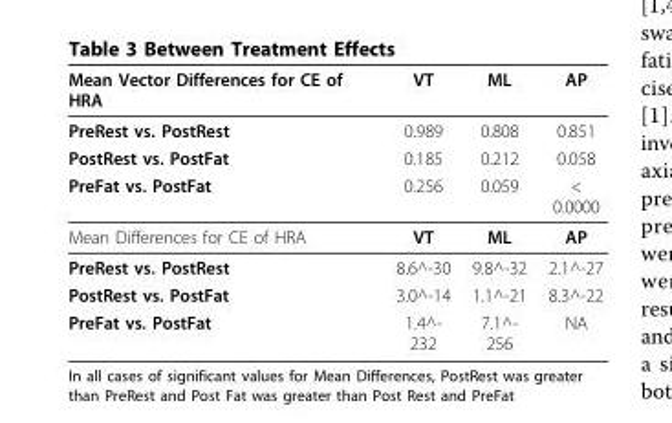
<table><thead><tr><td>Mean Vector Differences for CE of HRA</td><td>VT</td><td>ML</td><td>AP</td></tr></thead><tbody><tr><td>PreRest vs. PostRest</td><td>0.989</td><td>0.808</td><td>0.851</td></tr><tr><td>PostRest vs. PostFat</td><td>0.185</td><td>0.212</td><td>0.058</td></tr><tr><td>PreFat vs. PostFat</td><td>0.256</td><td>0.059</td><td>&lt; 0.0000</td></tr><tr><td>Mean Differences for CE of HRA</td><td>VT</td><td>ML</td><td>AP</td></tr><tr><td>PreRest vs. PostRest</td><td>8.6^-30</td><td>9.8^-32</td><td>2.1^-27</td></tr><tr><td>PostRest vs. PostFat</td><td>3.0^-14</td><td>1.1^-21</td><td>8.3^-22</td></tr><tr><td>PreFat vs. PostFat</td><td>1.4^- 232</td><td>7.1^- 256</td><td>NA</td></tr></tbody></table>